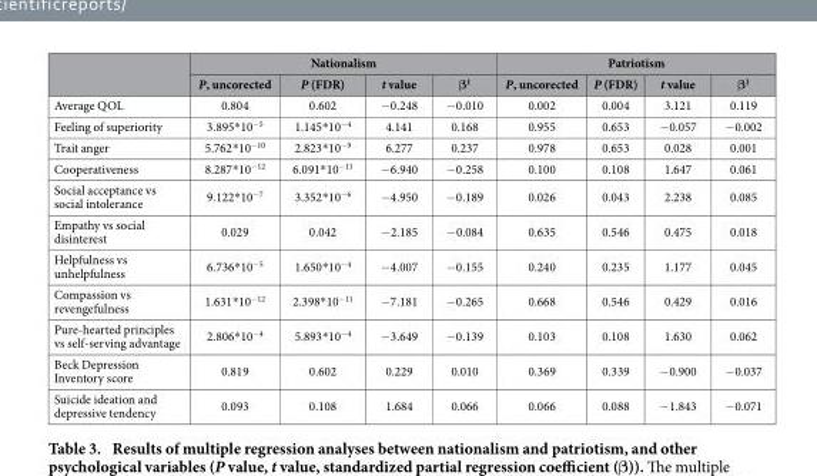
<table><thead><tr><td rowspan="2"></td><td colspan="4">Nationalism</td><td colspan="4">Patriotism</td></tr><tr><td>P, uncorected</td><td>P (FDR)</td><td>t value</td><td>β<sup>1</sup></td><td>P, uncorected</td><td>P (FDR)</td><td>t value</td><td>β<sup>1</sup></td></tr></thead><tbody><tr><td>Average QOL</td><td>0.804</td><td>0.602</td><td>− 0.248</td><td>− 0.010</td><td>0.002</td><td>0.004</td><td>3.121</td><td>0.119</td></tr><tr><td>Feeling of superiority</td><td>3.895* 10<sup>−5</sup></td><td>1.145* 10<sup>−4</sup></td><td>4.141</td><td>0.168</td><td>0.955</td><td>0.653</td><td>− 0.057</td><td>− 0.002</td></tr><tr><td>Trait anger</td><td>5.762* 10<sup>−10</sup></td><td>2.823* 10<sup>−9</sup></td><td>6.277</td><td>0.237</td><td>0.978</td><td>0.653</td><td>0.028</td><td>0.001</td></tr><tr><td>Cooperativeness</td><td>8.287* 10<sup>−12</sup></td><td>6.091* 10<sup>−11</sup></td><td>− 6.940</td><td>− 0.258</td><td>0.100</td><td>0.108</td><td>1.647</td><td>0.061</td></tr><tr><td>Social acceptance vs social intolerance</td><td>9.122* 10<sup>−7</sup></td><td>3.352* 10<sup>−6</sup></td><td>− 4.950</td><td>− 0.189</td><td>0.026</td><td>0.043</td><td>2.238</td><td>0.085</td></tr><tr><td>Empathy vs social disinterest</td><td>0.029</td><td>0.042</td><td>− 2.185</td><td>− 0.084</td><td>0.635</td><td>0.546</td><td>0.475</td><td>0.018</td></tr><tr><td>Helpfulness vs unhelpfulness</td><td>6.736* 10<sup>−5</sup></td><td>1.650* 10<sup>−4</sup></td><td>− 4.007</td><td>− 0.155</td><td>0.240</td><td>0.235</td><td>1.177</td><td>0.045</td></tr><tr><td>Compassion vs revengefulness</td><td>1.631* 10<sup>−12</sup></td><td>2.398* 10<sup>−11</sup></td><td>− 7.181</td><td>− 0.265</td><td>0.668</td><td>0.546</td><td>0.429</td><td>0.016</td></tr><tr><td>Pure-hearted principles vs self-serving advantage</td><td>2.806* 10<sup>−4</sup></td><td>5.893* 10<sup>−4</sup></td><td>− 3.649</td><td>− 0.139</td><td>0.103</td><td>0.108</td><td>1.630</td><td>0.062</td></tr><tr><td>Beck Depression Inventory score</td><td>0.819</td><td>0.602</td><td>0.229</td><td>0.010</td><td>0.369</td><td>0.339</td><td>− 0.900</td><td>− 0.037</td></tr><tr><td>Suicide ideation and depressive tendency</td><td>0.093</td><td>0.108</td><td>1.684</td><td>0.066</td><td>0.066</td><td>0.088</td><td>− 1.843</td><td>− 0.071</td></tr></tbody></table>